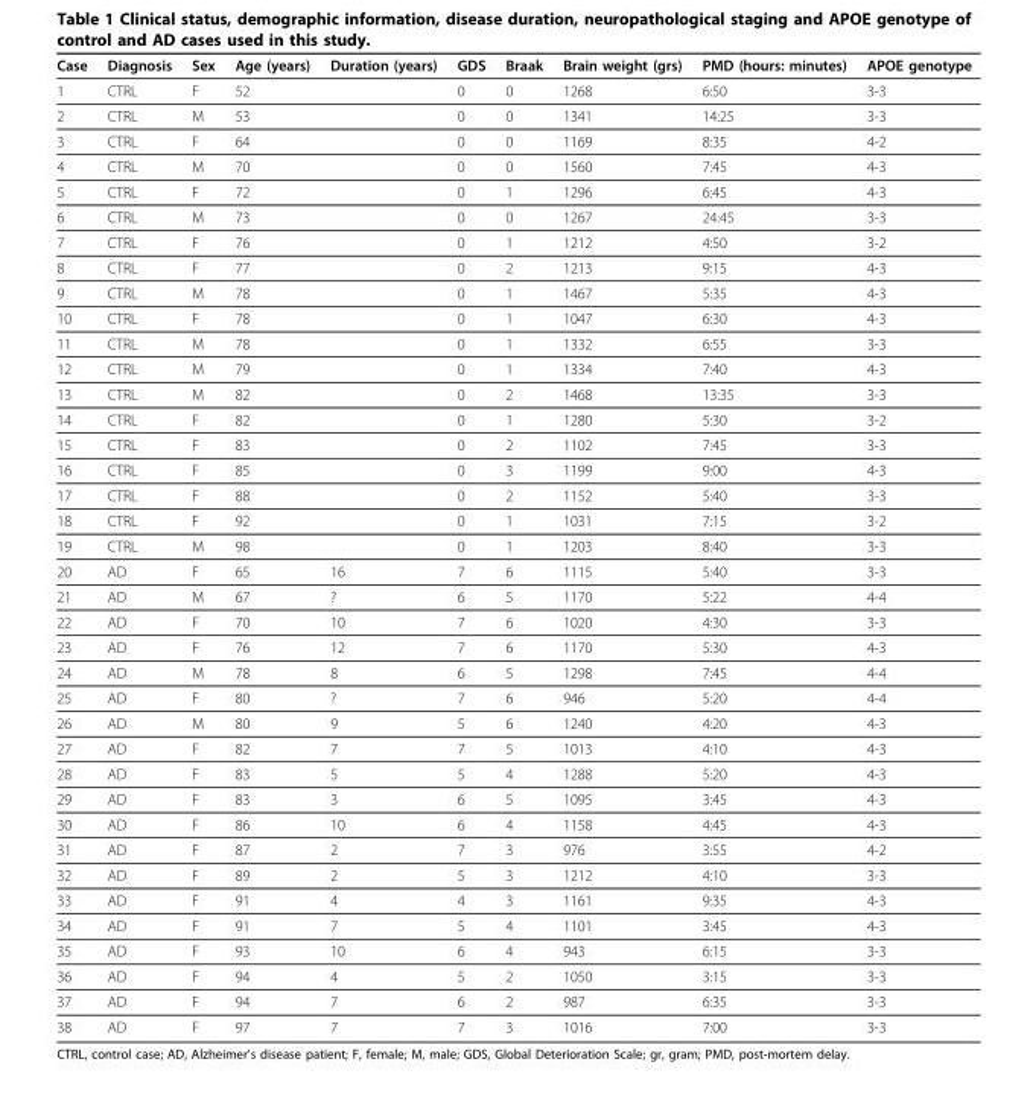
<table><thead><tr><td>Case</td><td>Diagnosis</td><td>Sex</td><td>Age (years)</td><td>Duration (years)</td><td>GDS</td><td>Braak</td><td>Brain weight (grs)</td><td>PMD (hours: minutes)</td><td>APOE genotype</td></tr></thead><tbody><tr><td>1</td><td>CTRL</td><td>F</td><td>52</td><td></td><td>0</td><td>0</td><td>1268</td><td>6:50</td><td>3-3</td></tr><tr><td>2</td><td>CTRL</td><td>M</td><td>53</td><td></td><td>0</td><td>0</td><td>1341</td><td>14:25</td><td>3-3</td></tr><tr><td>3</td><td>CTRL</td><td>F</td><td>64</td><td></td><td>0</td><td>0</td><td>1169</td><td>8:35</td><td>4-2</td></tr><tr><td>4</td><td>CTRL</td><td>M</td><td>70</td><td></td><td>0</td><td>0</td><td>1560</td><td>7:45</td><td>4-3</td></tr><tr><td>5</td><td>CTRL</td><td>F</td><td>72</td><td></td><td>0</td><td>1</td><td>1296</td><td>6:45</td><td>4-3</td></tr><tr><td>6</td><td>CTRL</td><td>M</td><td>73</td><td></td><td>0</td><td>0</td><td>1267</td><td>24:45</td><td>3-3</td></tr><tr><td>7</td><td>CTRL</td><td>F</td><td>76</td><td></td><td>0</td><td>1</td><td>1212</td><td>4:50</td><td>3-2</td></tr><tr><td>8</td><td>CTRL</td><td>F</td><td>77</td><td></td><td>0</td><td>2</td><td>1213</td><td>9:15</td><td>4-3</td></tr><tr><td>9</td><td>CTRL</td><td>M</td><td>78</td><td></td><td>0</td><td>1</td><td>1467</td><td>5:35</td><td>4-3</td></tr><tr><td>10</td><td>CTRL</td><td>F</td><td>78</td><td></td><td>0</td><td>1</td><td>1047</td><td>6:30</td><td>4-3</td></tr><tr><td>11</td><td>CTRL</td><td>M</td><td>78</td><td></td><td>0</td><td>1</td><td>1332</td><td>6:55</td><td>3-3</td></tr><tr><td>12</td><td>CTRL</td><td>M</td><td>79</td><td></td><td>0</td><td>1</td><td>1334</td><td>7:40</td><td>4-3</td></tr><tr><td>13</td><td>CTRL</td><td>M</td><td>82</td><td></td><td>0</td><td>2</td><td>1468</td><td>13:35</td><td>3-3</td></tr><tr><td>14</td><td>CTRL</td><td>F</td><td>82</td><td></td><td>0</td><td>1</td><td>1280</td><td>5:30</td><td>3-2</td></tr><tr><td>15</td><td>CTRL</td><td>F</td><td>83</td><td></td><td>0</td><td>2</td><td>1102</td><td>7:45</td><td>3-3</td></tr><tr><td>16</td><td>CTRL</td><td>F</td><td>85</td><td></td><td>0</td><td>3</td><td>1199</td><td>9:00</td><td>4-3</td></tr><tr><td>17</td><td>CTRL</td><td>F</td><td>88</td><td></td><td>0</td><td>2</td><td>1152</td><td>5:40</td><td>3-3</td></tr><tr><td>18</td><td>CTRL</td><td>F</td><td>92</td><td></td><td>0</td><td>1</td><td>1031</td><td>7:15</td><td>3-2</td></tr><tr><td>19</td><td>CTRL</td><td>M</td><td>98</td><td></td><td>0</td><td>1</td><td>1203</td><td>8:40</td><td>3-3</td></tr><tr><td>20</td><td>AD</td><td>F</td><td>65</td><td>16</td><td>7</td><td>6</td><td>1115</td><td>5:40</td><td>3-3</td></tr><tr><td>21</td><td>AD</td><td>M</td><td>67</td><td>?</td><td>6</td><td>5</td><td>1170</td><td>5:22</td><td>4-4</td></tr><tr><td>22</td><td>AD</td><td>F</td><td>70</td><td>10</td><td>7</td><td>6</td><td>1020</td><td>4:30</td><td>3-3</td></tr><tr><td>23</td><td>AD</td><td>F</td><td>76</td><td>12</td><td>7</td><td>6</td><td>1170</td><td>5:30</td><td>4-3</td></tr><tr><td>24</td><td>AD</td><td>M</td><td>78</td><td>8</td><td>6</td><td>5</td><td>1298</td><td>7:45</td><td>4-4</td></tr><tr><td>25</td><td>AD</td><td>F</td><td>80</td><td>?</td><td>7</td><td>6</td><td>946</td><td>5:20</td><td>4-4</td></tr><tr><td>26</td><td>AD</td><td>M</td><td>80</td><td>9</td><td>5</td><td>6</td><td>1240</td><td>4:20</td><td>4-3</td></tr><tr><td>27</td><td>AD</td><td>F</td><td>82</td><td>7</td><td>7</td><td>5</td><td>1013</td><td>4:10</td><td>4-3</td></tr><tr><td>28</td><td>AD</td><td>F</td><td>83</td><td>5</td><td>5</td><td>4</td><td>1288</td><td>5:20</td><td>4-3</td></tr><tr><td>29</td><td>AD</td><td>F</td><td>83</td><td>3</td><td>6</td><td>5</td><td>1095</td><td>3:45</td><td>4-3</td></tr><tr><td>30</td><td>AD</td><td>F</td><td>86</td><td>10</td><td>6</td><td>4</td><td>1158</td><td>4:45</td><td>4-3</td></tr><tr><td>31</td><td>AD</td><td>F</td><td>87</td><td>2</td><td>7</td><td>3</td><td>976</td><td>3:55</td><td>4-2</td></tr><tr><td>32</td><td>AD</td><td>F</td><td>89</td><td>2</td><td>5</td><td>3</td><td>1212</td><td>4:10</td><td>3-3</td></tr><tr><td>33</td><td>AD</td><td>F</td><td>91</td><td>4</td><td>4</td><td>3</td><td>1161</td><td>9:35</td><td>4-3</td></tr><tr><td>34</td><td>AD</td><td>F</td><td>91</td><td>7</td><td>5</td><td>4</td><td>1101</td><td>3:45</td><td>4-3</td></tr><tr><td>35</td><td>AD</td><td>F</td><td>93</td><td>10</td><td>6</td><td>4</td><td>943</td><td>6:15</td><td>3-3</td></tr><tr><td>36</td><td>AD</td><td>F</td><td>94</td><td>4</td><td>5</td><td>2</td><td>1050</td><td>3:15</td><td>3-3</td></tr><tr><td>37</td><td>AD</td><td>F</td><td>94</td><td>7</td><td>6</td><td>2</td><td>987</td><td>6:35</td><td>3-3</td></tr><tr><td>38</td><td>AD</td><td>F</td><td>97</td><td>7</td><td>7</td><td>3</td><td>1016</td><td>7:00</td><td>3-3</td></tr></tbody></table>